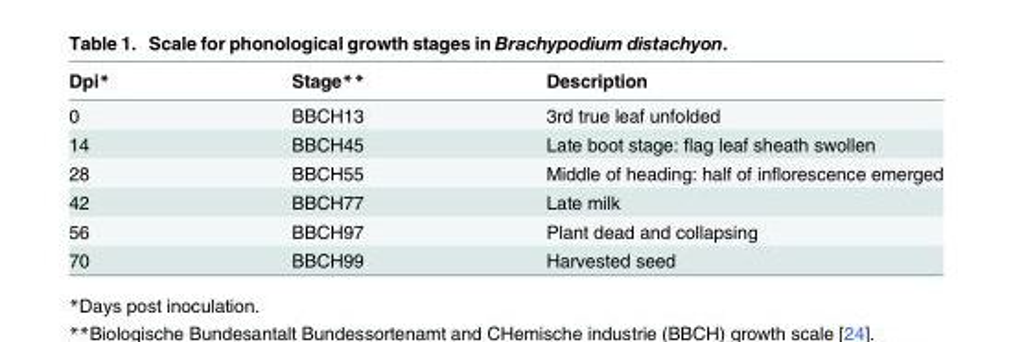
<table><thead><tr><td>Dpi*</td><td>Stage**</td><td>Description</td></tr></thead><tbody><tr><td>0</td><td>BBCH13</td><td>3rd true leaf unfolded</td></tr><tr><td>14</td><td>BBCH45</td><td>Late boot stage: flag leaf sheath swollen</td></tr><tr><td>28</td><td>BBCH55</td><td>Middle of heading: half of inflorescence emerged</td></tr><tr><td>42</td><td>BBCH77</td><td>Late milk</td></tr><tr><td>56</td><td>BBCH97</td><td>Plant dead and collapsing</td></tr><tr><td>70</td><td>BBCH99</td><td>Harvested seed</td></tr></tbody></table>